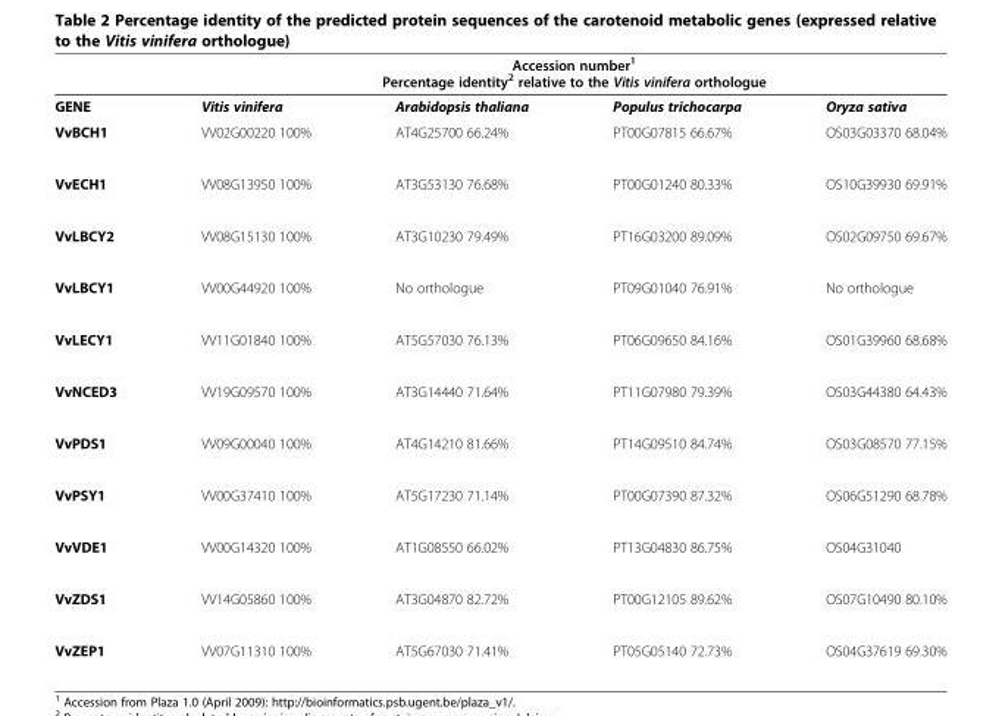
<table><thead><tr><td rowspan="2">GENE</td><td colspan="4">Accession number<sup>1</sup> Percentage identity<sup>2</sup> relative to the Vitis vinifera orthologue</td></tr><tr><td>Vitis vinifera</td><td>Arabidopsis thaliana</td><td>Populus trichocarpa</td><td>Oryza sativa</td></tr></thead><tbody><tr><td>VvBCH1</td><td>VV02G00220 100%</td><td>AT4G25700 66.24%</td><td>PT00G07815 66.67%</td><td>OS03G03370 68.04%</td></tr><tr><td>VvECH1</td><td>VV08G13950 100%</td><td>AT3G53130 76.68%</td><td>PT00G01240 80.33%</td><td>OS10G39930 69.91%</td></tr><tr><td>VvLBCY2</td><td>VV08G15130 100%</td><td>AT3G10230 79.49%</td><td>PT16G03200 89.09%</td><td>OS02G09750 69.67%</td></tr><tr><td>VvLBCY1</td><td>VV00G44920 100%</td><td>No orthologue</td><td>PT09G01040 76.91%</td><td>No orthologue</td></tr><tr><td>VvLECY1</td><td>VV11G01840 100%</td><td>AT5G57030 76.13%</td><td>PT06G09650 84.16%</td><td>OS01G39960 68.68%</td></tr><tr><td>VvNCED3</td><td>VV19G09570 100%</td><td>AT3G14440 71.64%</td><td>PT11G07980 79.39%</td><td>OS03G44380 64.43%</td></tr><tr><td>VvPDS1</td><td>VV09G00040 100%</td><td>AT4G14210 81.66%</td><td>PT14G09510 84.74%</td><td>OS03G08570 77.15%</td></tr><tr><td>VvPSY1</td><td>VV00G37410 100%</td><td>AT5G17230 71.14%</td><td>PT00G07390 87.32%</td><td>OS06G51290 68.78%</td></tr><tr><td>VvVDE1</td><td>VV00G14320 100%</td><td>AT1G08550 66.02%</td><td>PT13G04830 86.75%</td><td>OS04G31040</td></tr><tr><td>VvZDS1</td><td>VV14G05860 100%</td><td>AT3G04870 82.72%</td><td>PT00G12105 89.62%</td><td>OS07G10490 80.10%</td></tr><tr><td>VvZEP1</td><td>VV07G11310 100%</td><td>AT5G67030 71.41%</td><td>PT05G05140 72.73%</td><td>OS04G37619 69.30%</td></tr></tbody></table>